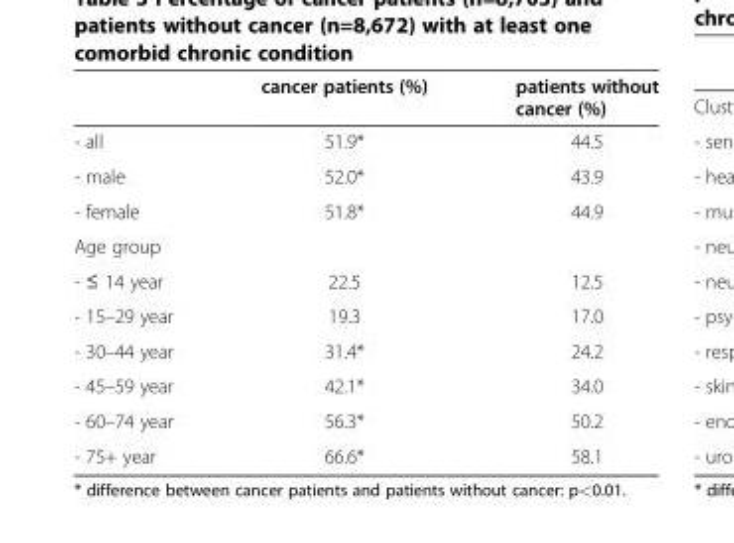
<table><thead><tr><td></td><td>cancer patients (%)</td><td>patients without cancer (%)</td></tr></thead><tbody><tr><td>- all</td><td>51.9*</td><td>44.5</td></tr><tr><td>- male</td><td>52.0*</td><td>43.9</td></tr><tr><td>- female</td><td>51.8*</td><td>44.9</td></tr><tr><td colspan="3">Age group</td></tr><tr><td>- ≤ 14 year</td><td>22.5</td><td>12.5</td></tr><tr><td>- 15–29 year</td><td>19.3</td><td>17.0</td></tr><tr><td>- 30–44 year</td><td>31.4*</td><td>24.2</td></tr><tr><td>- 45–59 year</td><td>42.1*</td><td>34.0</td></tr><tr><td>- 60–74 year</td><td>56.3*</td><td>50.2</td></tr><tr><td>- 75+ year</td><td>66.6*</td><td>58.1</td></tr></tbody></table>